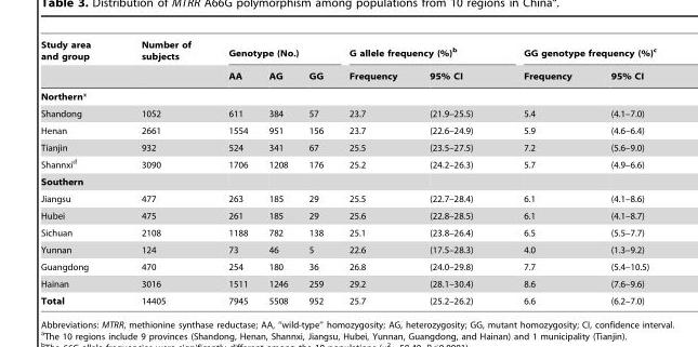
<table><thead><tr><td rowspan="2">Study area and group</td><td rowspan="2">Number of subjects</td><td colspan="3">Genotype (No.)</td><td colspan="2">G allele frequency (%)<sup>b</sup></td><td colspan="2">GG genotype frequency (%)<sup>c</sup></td></tr><tr><td>AA</td><td>AG</td><td>GG</td><td>Frequency</td><td>95% CI</td><td>Frequency</td><td>95% CI</td></tr></thead><tbody><tr><td colspan="9">Northern*</td></tr><tr><td>Shandong</td><td>1052</td><td>611</td><td>384</td><td>57</td><td>23.7</td><td>(21.9–25.5)</td><td>5.4</td><td>(4.1–7.0)</td></tr><tr><td>Henan</td><td>2661</td><td>1554</td><td>951</td><td>156</td><td>23.7</td><td>(22.6–24.9)</td><td>5.9</td><td>(4.6–6.4)</td></tr><tr><td>Tianjin</td><td>932</td><td>524</td><td>341</td><td>67</td><td>25.5</td><td>(23.5–27.5)</td><td>7.2</td><td>(5.6–9.0)</td></tr><tr><td>Shannxi<sup>d</sup></td><td>3090</td><td>1706</td><td>1208</td><td>176</td><td>25.2</td><td>(24.2–26.3)</td><td>5.7</td><td>(4.9–6.6)</td></tr><tr><td colspan="9">Southern</td></tr><tr><td>Jiangsu</td><td>477</td><td>263</td><td>185</td><td>29</td><td>25.5</td><td>(22.7–28.4)</td><td>6.1</td><td>(4.1–8.6)</td></tr><tr><td>Hubei</td><td>475</td><td>261</td><td>185</td><td>29</td><td>25.6</td><td>(22.8–28.5)</td><td>6.1</td><td>(4.1–8.7)</td></tr><tr><td>Sichuan</td><td>2108</td><td>1188</td><td>782</td><td>138</td><td>25.1</td><td>(23.8–26.4)</td><td>6.5</td><td>(5.5–7.7)</td></tr><tr><td>Yunnan</td><td>124</td><td>73</td><td>46</td><td>5</td><td>22.6</td><td>(17.5–28.3)</td><td>4.0</td><td>(1.3–9.2)</td></tr><tr><td>Guangdong</td><td>470</td><td>254</td><td>180</td><td>36</td><td>26.8</td><td>(24.0–29.8)</td><td>7.7</td><td>(5.4–10.5)</td></tr><tr><td>Hainan</td><td>3016</td><td>1511</td><td>1246</td><td>259</td><td>29.2</td><td>(28.1–30.4)</td><td>8.6</td><td>(7.6–9.6)</td></tr><tr><td>Total</td><td>14405</td><td>7945</td><td>5508</td><td>952</td><td>25.7</td><td>(25.2–26.2)</td><td>6.6</td><td>(6.2–7.0)</td></tr></tbody></table>